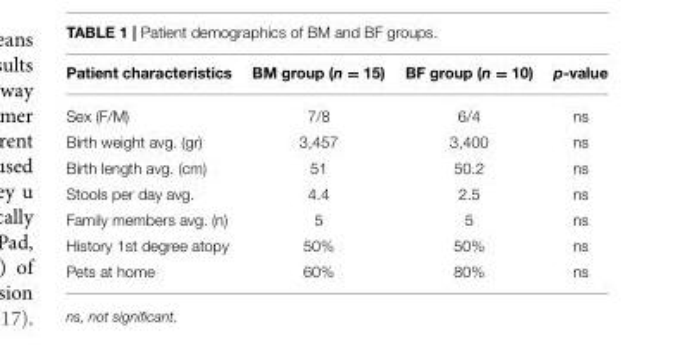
<table><thead><tr><td>Patient characteristics</td><td>BM group (n = 15)</td><td>BF group (n = 10)</td><td>p-value</td></tr></thead><tbody><tr><td>Sex (F/M)</td><td>7/8</td><td>6/4</td><td>ns</td></tr><tr><td>Birth weight avg. (gr)</td><td>3,457</td><td>3,400</td><td>ns</td></tr><tr><td>Birth length avg. (cm)</td><td>51</td><td>50.2</td><td>ns</td></tr><tr><td>Stools per day avg.</td><td>4.4</td><td>2.5</td><td>ns</td></tr><tr><td>Family members avg. (n)</td><td>5</td><td>5</td><td>ns</td></tr><tr><td>History 1st degree atopy</td><td>50%</td><td>50%</td><td>ns</td></tr><tr><td>Pets at home</td><td>60%</td><td>80%</td><td>ns</td></tr></tbody></table>